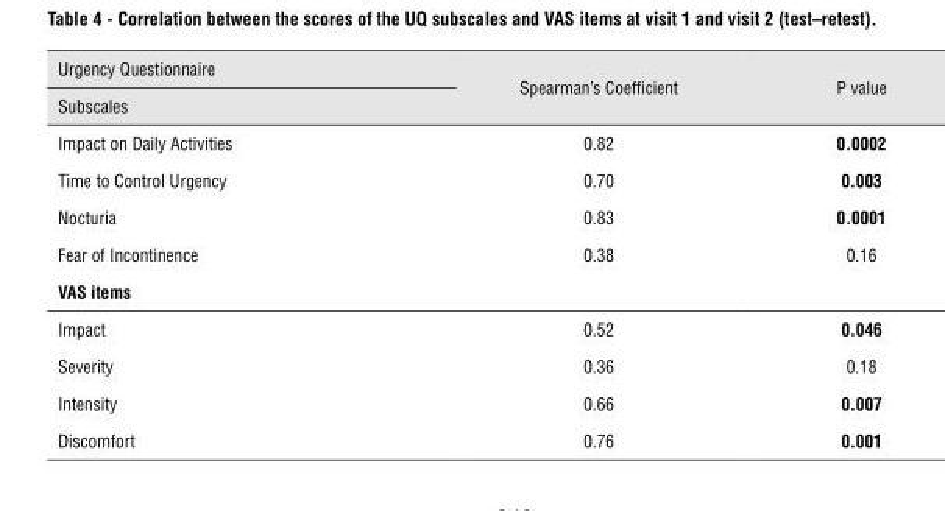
<table><thead><tr><td rowspan="2">Urgency Questionnaire Subscales</td><td rowspan="2">Spearman’s Coefficient</td><td rowspan="2">P value</td></tr><tr></tr></thead><tbody><tr><td>Impact on Daily Activities</td><td>0.82</td><td>0.0002</td></tr><tr><td>Time to Control Urgency</td><td>0.70</td><td>0.003</td></tr><tr><td>Nocturia</td><td>0.83</td><td>0.0001</td></tr><tr><td>Fear of Incontinence</td><td>0.38</td><td>0.16</td></tr><tr><td colspan="3">vAS items</td></tr><tr><td>Impact</td><td>0.52</td><td>0.046</td></tr><tr><td>Severity</td><td>0.36</td><td>0.18</td></tr><tr><td>Intensity</td><td>0.66</td><td>0.007</td></tr><tr><td>Discomfort</td><td>0.76</td><td>0.001</td></tr></tbody></table>